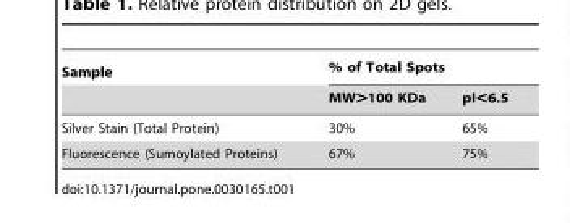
<table><thead><tr><td rowspan="2">Sample</td><td colspan="2">% of Total Spots</td></tr><tr><td>MW&gt;100 KDa</td><td>pI&lt;6.5</td></tr></thead><tbody><tr><td>Silver Stain (Total Protein)</td><td>30%</td><td>65%</td></tr><tr><td>Fluorescence (Sumoylated Proteins)</td><td>67%</td><td>75%</td></tr></tbody></table>